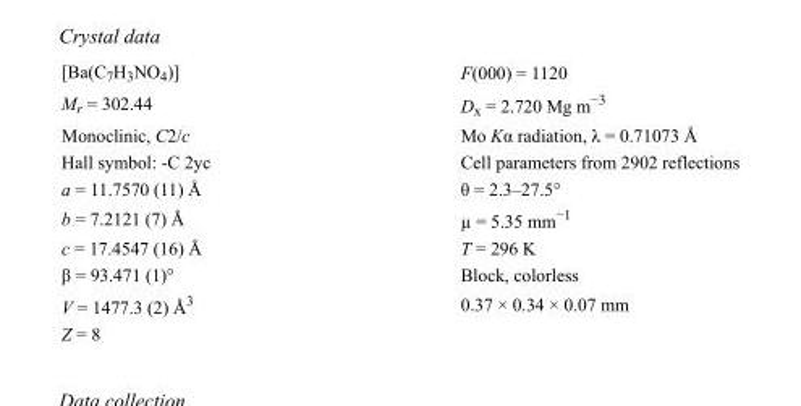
<table><tbody><tr><td>[Ba(C<sub>7</sub>H<sub>3</sub>NO<sub>4</sub>)]</td><td>F(000) = 1120</td></tr><tr><td>M<sub>r</sub> = 302.44</td><td>D<sub>x</sub> = 2.720 Mg m<sup>−3</sup></td></tr><tr><td>Monoclinic, C2/c</td><td>Mo Kα radiation, λ = 0.71073 Å</td></tr><tr><td>Hall symbol: -C 2yc</td><td>Cell parameters from 2902 reflections</td></tr><tr><td>a = 11.7570 (11) Å</td><td>θ = 2.3–27.5°</td></tr><tr><td>b = 7.2121 (7) Å</td><td>µ = 5.35 mm<sup>−1</sup></td></tr><tr><td>c = 17.4547 (16) Å</td><td>T = 296 K</td></tr><tr><td>β = 93.471 (1)°</td><td>Block, colorless</td></tr><tr><td>V = 1477.3 (2) Å<sup>3</sup></td><td>0.37 × 0.34 × 0.07 mm</td></tr><tr><td>Z = 8</td><td></td></tr></tbody></table>